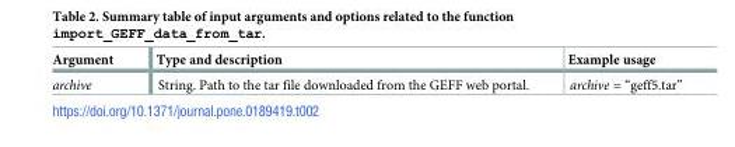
<table><thead><tr><td>Argument</td><td>Type and description</td><td>Example usage</td></tr></thead><tbody><tr><td>archive</td><td>String. Path to the tar file downloaded from the GEFF web portal.</td><td>archive = “geff5.tar”</td></tr></tbody></table>